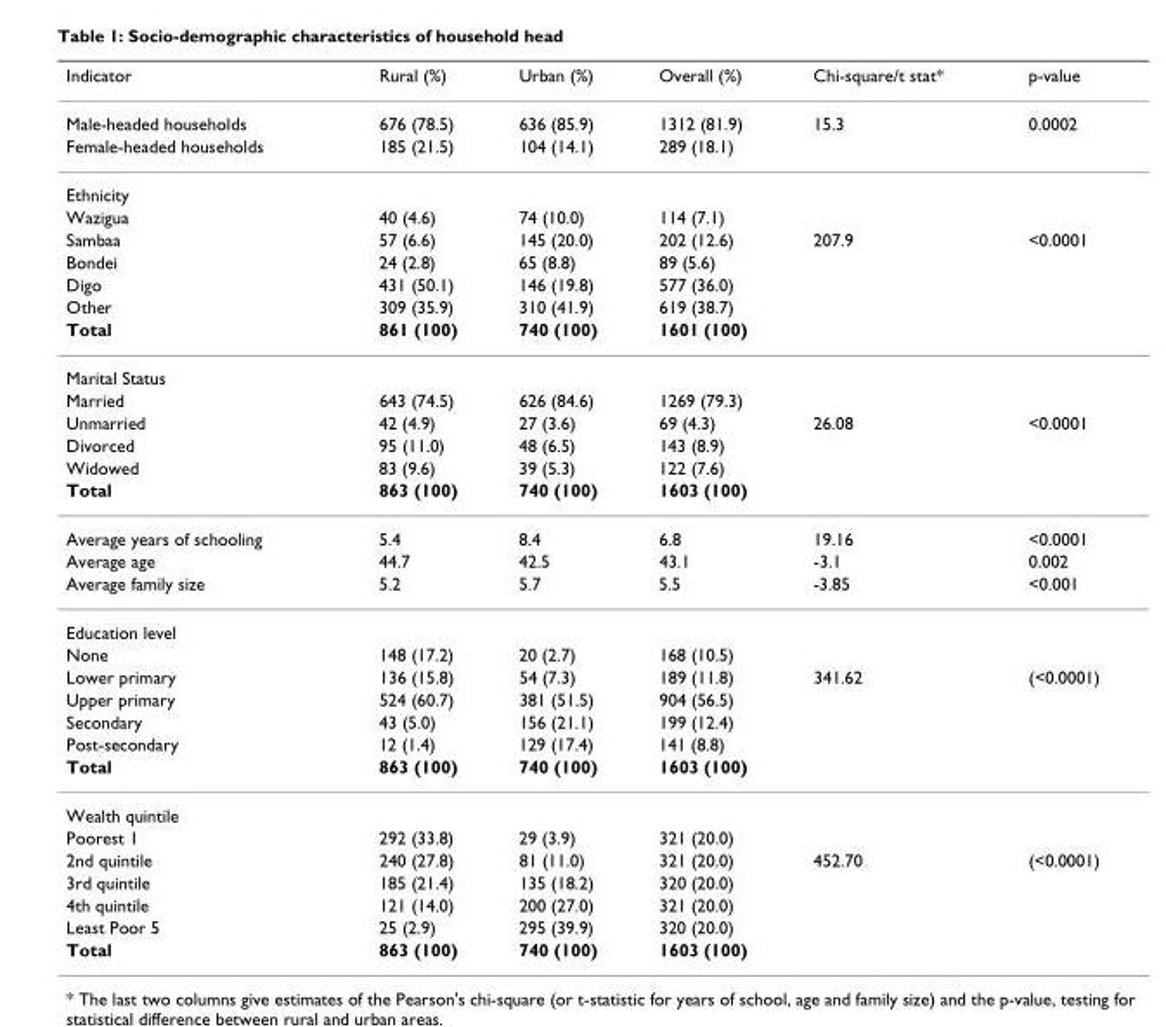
<table><thead><tr><td>Indicator</td><td>Rural (%)</td><td>Urban (%)</td><td>Overall (%)</td><td>Chi-square/t stat*</td><td>p-value</td></tr></thead><tbody><tr><td>Male-headed households</td><td>676 (78.5)</td><td>636 (85.9)</td><td>1312 (81.9)</td><td>15.3</td><td>0.0002</td></tr><tr><td>Female-headed households</td><td>185 (21.5)</td><td>104 (14.1)</td><td>289 (18.1)</td><td></td><td></td></tr><tr><td colspan="6">Ethnicity</td></tr><tr><td>Wazigua</td><td>40 (4.6)</td><td>74 (10.0)</td><td>114 (7.1)</td><td></td><td></td></tr><tr><td>Sambaa</td><td>57 (6.6)</td><td>145 (20.0)</td><td>202 (12.6)</td><td>207.9</td><td>&lt;0.0001</td></tr><tr><td>Bondei</td><td>24 (2.8)</td><td>65 (8.8)</td><td>89 (5.6)</td><td></td><td></td></tr><tr><td>Digo</td><td>431 (50.1)</td><td>146 (19.8)</td><td>577 (36.0)</td><td></td><td></td></tr><tr><td>Other</td><td>309 (35.9)</td><td>310 (41.9)</td><td>619 (38.7)</td><td></td><td></td></tr><tr><td>Total</td><td>861 (100)</td><td>740 (100)</td><td>1601 (100)</td><td></td><td></td></tr><tr><td colspan="6">Marital Status</td></tr><tr><td>Married</td><td>643 (74.5)</td><td>626 (84.6)</td><td>1269 (79.3)</td><td></td><td></td></tr><tr><td>Unmarried</td><td>42 (4.9)</td><td>27 (3.6)</td><td>69 (4.3)</td><td>26.08</td><td>&lt;0.0001</td></tr><tr><td>Divorced</td><td>95 (11.0)</td><td>48 (6.5)</td><td>143 (8.9)</td><td></td><td></td></tr><tr><td>Widowed</td><td>83 (9.6)</td><td>39 (5.3)</td><td>122 (7.6)</td><td></td><td></td></tr><tr><td>Total</td><td>863 (100)</td><td>740 (100)</td><td>1603 (100)</td><td></td><td></td></tr><tr><td>Average years of schooling</td><td>5.4</td><td>8.4</td><td>6.8</td><td>19.16</td><td>&lt;0.0001</td></tr><tr><td>Average age</td><td>44.7</td><td>42.5</td><td>43.1</td><td>-3.1</td><td>0.002</td></tr><tr><td>Average family size</td><td>5.2</td><td>5.7</td><td>5.5</td><td>-3.85</td><td>&lt;0.001</td></tr><tr><td colspan="6">Education level</td></tr><tr><td>None</td><td>148 (17.2)</td><td>20 (2.7)</td><td>168 (10.5)</td><td></td><td></td></tr><tr><td>Lower primary</td><td>136 (15.8)</td><td>54 (7.3)</td><td>189 (11.8)</td><td>341.62</td><td>(&lt;0.0001)</td></tr><tr><td>Upper primary</td><td>524 (60.7)</td><td>381 (51.5)</td><td>904 (56.5)</td><td></td><td></td></tr><tr><td>Secondary</td><td>43 (5.0)</td><td>156 (21.1)</td><td>199 (12.4)</td><td></td><td></td></tr><tr><td>Post-secondary</td><td>12 (1.4)</td><td>129 (17.4)</td><td>141 (8.8)</td><td></td><td></td></tr><tr><td>Total</td><td>863 (100)</td><td>740 (100)</td><td>1603 (100)</td><td></td><td></td></tr><tr><td colspan="6">Wealth quintile</td></tr><tr><td>Poorest 1</td><td>292 (33.8)</td><td>29 (3.9)</td><td>321 (20.0)</td><td></td><td></td></tr><tr><td>2nd quintile</td><td>240 (27.8)</td><td>81 (11.0)</td><td>321 (20.0)</td><td>452.70</td><td>(&lt;0.0001)</td></tr><tr><td>3rd quintile</td><td>185 (21.4)</td><td>135 (18.2)</td><td>320 (20.0)</td><td></td><td></td></tr><tr><td>4th quintile</td><td>121 (14.0)</td><td>200 (27.0)</td><td>321 (20.0)</td><td></td><td></td></tr><tr><td>Least Poor 5</td><td>25 (2.9)</td><td>295 (39.9)</td><td>320 (20.0)</td><td></td><td></td></tr><tr><td>Total</td><td>863 (100)</td><td>740 (100)</td><td>1603 (100)</td><td></td><td></td></tr></tbody></table>